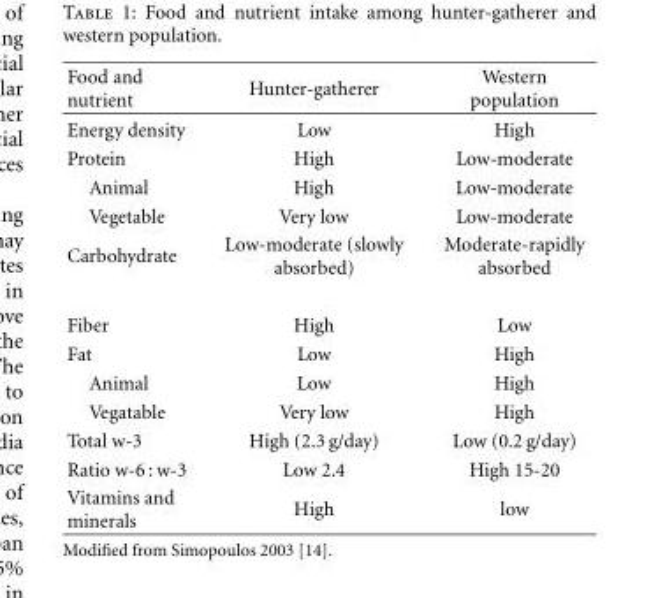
<table><thead><tr><td>Food and nutrient</td><td>Hunter-gatherer</td><td>Western population</td></tr></thead><tbody><tr><td>Energy density</td><td>Low</td><td>High</td></tr><tr><td>Protein</td><td>High</td><td>Low-moderate</td></tr><tr><td>Animal</td><td>High</td><td>Low-moderate</td></tr><tr><td>Vegetable</td><td>Very low</td><td>Low-moderate</td></tr><tr><td>Carbohydrate</td><td>Low-moderate (slowly absorbed)</td><td>Moderate-rapidly absorbed</td></tr><tr><td>Fiber</td><td>High</td><td>Low</td></tr><tr><td>Fat</td><td>Low</td><td>High</td></tr><tr><td>Animal</td><td>Low</td><td>High</td></tr><tr><td>Vegatable</td><td>Very low</td><td>High</td></tr><tr><td>Total w-3</td><td>High (2.3 g/day)</td><td>Low (0.2 g/day)</td></tr><tr><td>Ratio w-6 : w-3</td><td>Low 2.4</td><td>High 15-20</td></tr><tr><td>Vitamins and minerals</td><td>High</td><td>low</td></tr></tbody></table>